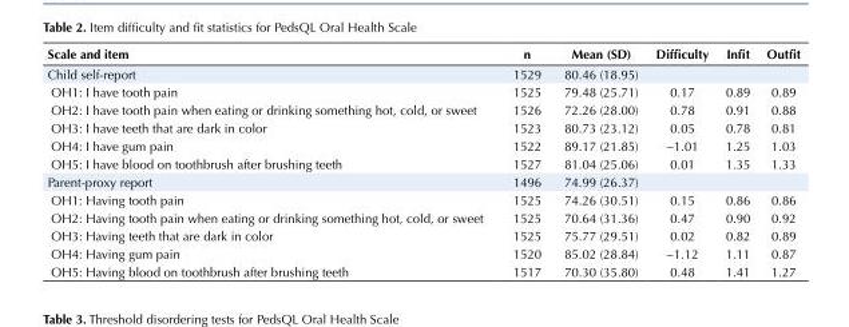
<table><tbody><tr><td>Scale and item</td><td>n</td><td>Mean (SD)</td><td>Difficulty</td><td>Infit</td><td>Outfit</td></tr><tr><td>Child self-report</td><td>1529</td><td>80.46 (18.95)</td><td></td><td></td><td></td></tr><tr><td>OH1: I have tooth pain</td><td>1525</td><td>79.48 (25.71)</td><td>0.17</td><td>0.89</td><td>0.89</td></tr><tr><td>OH2: I have tooth pain when eating or drinking something hot, cold, or sweet</td><td>1526</td><td>72.26 (28.00)</td><td>0.78</td><td>0.91</td><td>0.88</td></tr><tr><td>OH3: I have teeth that are dark in color</td><td>1523</td><td>80.73 (23.12)</td><td>0.05</td><td>0.78</td><td>0.81</td></tr><tr><td>OH4: I have gum pain</td><td>1522</td><td>89.17 (21.85)</td><td>−1.01</td><td>1.25</td><td>1.03</td></tr><tr><td>OH5: I have blood on toothbrush after brushing teeth</td><td>1527</td><td>81.04 (25.06)</td><td>0.01</td><td>1.35</td><td>1.33</td></tr><tr><td>Parent-proxy report</td><td>1496</td><td>74.99 (26.37)</td><td></td><td></td><td></td></tr><tr><td>OH1: Having tooth pain</td><td>1525</td><td>74.26 (30.51)</td><td>0.15</td><td>0.86</td><td>0.86</td></tr><tr><td>OH2: Having tooth pain when eating or drinking something hot, cold, or sweet</td><td>1525</td><td>70.64 (31.36)</td><td>0.47</td><td>0.90</td><td>0.92</td></tr><tr><td>OH3: Having teeth that are dark in color</td><td>1525</td><td>75.77 (29.51)</td><td>0.02</td><td>0.82</td><td>0.89</td></tr><tr><td>OH4: Having gum pain</td><td>1520</td><td>85.02 (28.84)</td><td>−1.12</td><td>1.11</td><td>0.87</td></tr><tr><td>OH5: Having blood on toothbrush after brushing teeth</td><td>1517</td><td>70.30 (35.80)</td><td>0.48</td><td>1.41</td><td>1.27</td></tr></tbody></table>